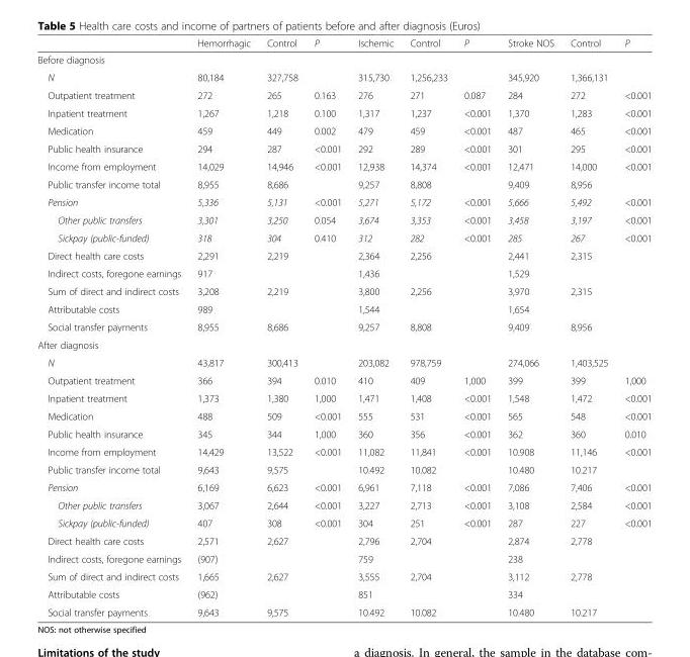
<table><thead><tr><td></td><td>Hemorrhagic</td><td>Control</td><td>P</td><td>Ischemic</td><td>Control</td><td>P</td><td>Stroke NOS</td><td>Control</td><td>P</td></tr></thead><tbody><tr><td colspan="10">Before diagnosis</td></tr><tr><td>N</td><td>80,184</td><td>327,758</td><td></td><td>315,730</td><td>1,256,233</td><td></td><td>345,920</td><td>1,366,131</td><td></td></tr><tr><td>Outpatient treatment</td><td>272</td><td>265</td><td>0.163</td><td>276</td><td>271</td><td>0.087</td><td>284</td><td>272</td><td>&lt;0.001</td></tr><tr><td>Inpatient treatment</td><td>1,267</td><td>1,218</td><td>0.100</td><td>1,317</td><td>1,237</td><td>&lt;0.001</td><td>1,370</td><td>1,283</td><td>&lt;0.001</td></tr><tr><td>Medication</td><td>459</td><td>449</td><td>0.002</td><td>479</td><td>459</td><td>&lt;0.001</td><td>487</td><td>465</td><td>&lt;0.001</td></tr><tr><td>Public health insurance</td><td>294</td><td>287</td><td>&lt;0.001</td><td>292</td><td>289</td><td>&lt;0.001</td><td>301</td><td>295</td><td>&lt;0.001</td></tr><tr><td>Income from employment</td><td>14,029</td><td>14,946</td><td>&lt;0.001</td><td>12,938</td><td>14,374</td><td>&lt;0.001</td><td>12,471</td><td>14,000</td><td>&lt;0.001</td></tr><tr><td>Public transfer income total</td><td>8,955</td><td>8,686</td><td></td><td>9,257</td><td>8,808</td><td></td><td>9,409</td><td>8,956</td><td></td></tr><tr><td>Pension</td><td>5,336</td><td>5,131</td><td>&lt;0.001</td><td>5,271</td><td>5,172</td><td>&lt;0.001</td><td>5,666</td><td>5,492</td><td>&lt;0.001</td></tr><tr><td>Other public transfers</td><td>3,301</td><td>3,250</td><td>0.054</td><td>3,674</td><td>3,353</td><td>&lt;0.001</td><td>3,458</td><td>3,197</td><td>&lt;0.001</td></tr><tr><td>Sickpay (public-funded)</td><td>318</td><td>304</td><td>0.410</td><td>312</td><td>282</td><td>&lt;0.001</td><td>285</td><td>267</td><td>&lt;0.001</td></tr><tr><td>Direct health care costs</td><td>2,291</td><td>2,219</td><td></td><td>2,364</td><td>2,256</td><td></td><td>2,441</td><td>2,315</td><td></td></tr><tr><td>Indirect costs, foregone earnings</td><td>917</td><td></td><td></td><td>1,436</td><td></td><td></td><td>1,529</td><td></td><td></td></tr><tr><td>Sum of direct and indirect costs</td><td>3,208</td><td>2,219</td><td></td><td>3,800</td><td>2,256</td><td></td><td>3,970</td><td>2,315</td><td></td></tr><tr><td>Attributable costs</td><td>989</td><td></td><td></td><td>1,544</td><td></td><td></td><td>1,654</td><td></td><td></td></tr><tr><td>Social transfer payments</td><td>8,955</td><td>8,686</td><td></td><td>9,257</td><td>8,808</td><td></td><td>9,409</td><td>8,956</td><td></td></tr><tr><td colspan="10">After diagnosis</td></tr><tr><td>N</td><td>43,817</td><td>300,413</td><td></td><td>203,082</td><td>978,759</td><td></td><td>274,066</td><td>1,403,525</td><td></td></tr><tr><td>Outpatient treatment</td><td>366</td><td>394</td><td>0.010</td><td>410</td><td>409</td><td>1,000</td><td>399</td><td>399</td><td>1,000</td></tr><tr><td>Inpatient treatment</td><td>1,373</td><td>1,380</td><td>1,000</td><td>1,471</td><td>1,408</td><td>&lt;0.001</td><td>1,548</td><td>1,472</td><td>&lt;0.001</td></tr><tr><td>Medication</td><td>488</td><td>509</td><td>&lt;0.001</td><td>555</td><td>531</td><td>&lt;0.001</td><td>565</td><td>548</td><td>&lt;0.001</td></tr><tr><td>Public health insurance</td><td>345</td><td>344</td><td>1,000</td><td>360</td><td>356</td><td>&lt;0.001</td><td>362</td><td>360</td><td>0.010</td></tr><tr><td>Income from employment</td><td>14,429</td><td>13,522</td><td>&lt;0.001</td><td>11,082</td><td>11,841</td><td>&lt;0.001</td><td>10.908</td><td>11,146</td><td>&lt;0.001</td></tr><tr><td>Public transfer income total</td><td>9,643</td><td>9,575</td><td></td><td>10.492</td><td>10.082</td><td></td><td>10.480</td><td>10.217</td><td></td></tr><tr><td>Pension</td><td>6,169</td><td>6,623</td><td>&lt;0.001</td><td>6,961</td><td>7,118</td><td>&lt;0.001</td><td>7,086</td><td>7,406</td><td>&lt;0.001</td></tr><tr><td>Other public transfers</td><td>3,067</td><td>2,644</td><td>&lt;0.001</td><td>3,227</td><td>2,713</td><td>&lt;0.001</td><td>3,108</td><td>2,584</td><td>&lt;0.001</td></tr><tr><td>Sickpay (public-funded)</td><td>407</td><td>308</td><td>&lt;0.001</td><td>304</td><td>251</td><td>&lt;0.001</td><td>287</td><td>227</td><td>&lt;0.001</td></tr><tr><td>Direct health care costs</td><td>2,571</td><td>2,627</td><td></td><td>2,796</td><td>2,704</td><td></td><td>2,874</td><td>2,778</td><td></td></tr><tr><td>Indirect costs, foregone earnings</td><td>(907)</td><td></td><td></td><td>759</td><td></td><td></td><td>238</td><td></td><td></td></tr><tr><td>Sum of direct and indirect costs</td><td>1,665</td><td>2,627</td><td></td><td>3,555</td><td>2,704</td><td></td><td>3,112</td><td>2,778</td><td></td></tr><tr><td>Attributable costs</td><td>(962)</td><td></td><td></td><td>851</td><td></td><td></td><td>334</td><td></td><td></td></tr><tr><td>Social transfer payments</td><td>9,643</td><td>9,575</td><td></td><td>10.492</td><td>10.082</td><td></td><td>10.480</td><td>10.217</td><td></td></tr></tbody></table>